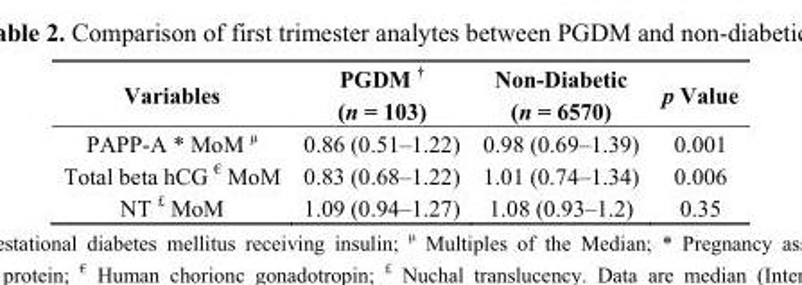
<table><thead><tr><td>Variables</td><td>PGDM <sup>†</sup> (n = 103)</td><td>Non-Diabetic (n = 6570)</td><td>p Value</td></tr></thead><tbody><tr><td>PAPP-A * MoM <sup>μ</sup></td><td>0.86 (0.51–1.22)</td><td>0.98 (0.69–1.39)</td><td>0.001</td></tr><tr><td>Total beta hCG <sup>€</sup> MoM</td><td>0.83 (0.68–1.22)</td><td>1.01 (0.74–1.34)</td><td>0.006</td></tr><tr><td>NT <sup>£</sup> MoM</td><td>1.09 (0.94–1.27)</td><td>1.08 (0.93–1.2)</td><td>0.35</td></tr></tbody></table>